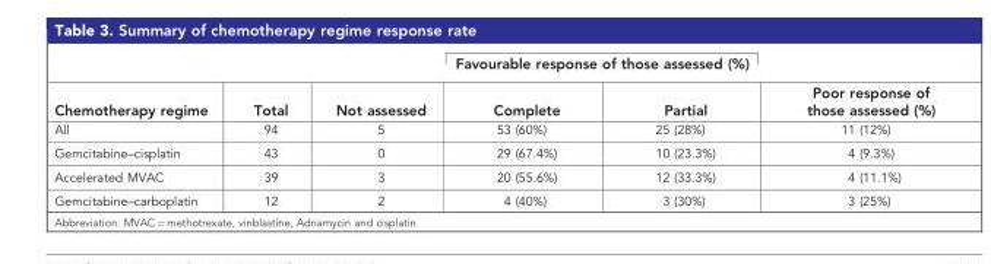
<table><thead><tr><td rowspan="2">Chemotherapy regime</td><td rowspan="2">Total</td><td rowspan="2">Not assessed</td><td colspan="2">Favourable response of those assessed (%)</td><td rowspan="2">Poor response of those assessed (%)</td></tr><tr><td>Complete</td><td>Partial</td></tr></thead><tbody><tr><td>All</td><td>94</td><td>5</td><td>53 (60%)</td><td>25 (28%)</td><td>11 (12%)</td></tr><tr><td>Gemcitabine–cisplatin</td><td>43</td><td>0</td><td>29 (67.4%)</td><td>10 (23.3%)</td><td>4 (9.3%)</td></tr><tr><td>Accelerated MVAC</td><td>39</td><td>3</td><td>20 (55.6%)</td><td>12 (33.3%)</td><td>4 (11.1%)</td></tr><tr><td>Gemcitabine–carboplatin</td><td>12</td><td>2</td><td>4 (40%)</td><td>3 (30%)</td><td>3 (25%)</td></tr></tbody></table>